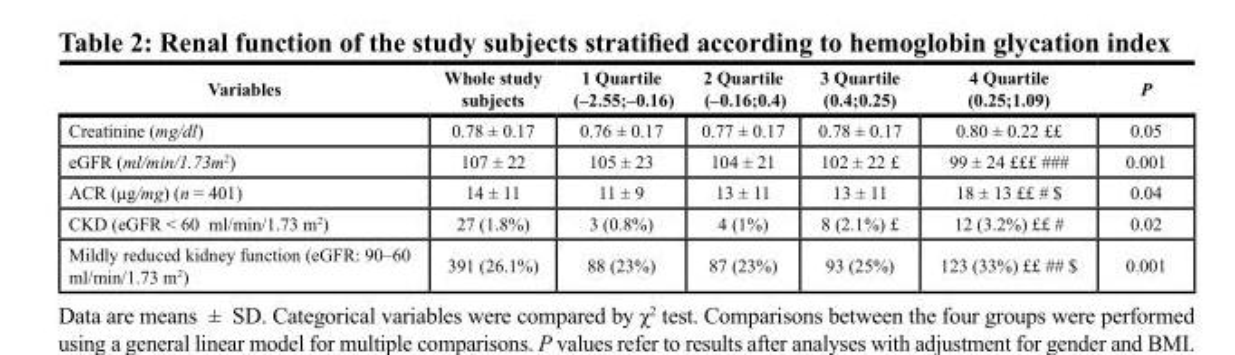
<table><thead><tr><td>Variables</td><td>Whole study subjects</td><td>1 Quartile (–2.55;–0.16)</td><td>2 Quartile (–0.16;0.4)</td><td>3 Quartile (0.4;0.25)</td><td>4 Quartile (0.25;1.09)</td><td>P</td></tr></thead><tbody><tr><td>Creatinine (mg/dl)</td><td>0.78 ± 0.17</td><td>0.76 ± 0.17</td><td>0.77 ± 0.17</td><td>0.78 ± 0.17</td><td>0.80 ± 0.22 ££</td><td>0.05</td></tr><tr><td>eGFR (ml/min/1.73m<sup>2</sup>)</td><td>107 ± 22</td><td>105 ± 23</td><td>104 ± 21</td><td>102 ± 22 £</td><td>99 ± 24 £££ ###</td><td>0.001</td></tr><tr><td>ACR (μg/mg) (n = 401)</td><td>14 ± 11</td><td>11 ± 9</td><td>13 ± 11</td><td>13 ± 11</td><td>18 ± 13 ££ # $</td><td>0.04</td></tr><tr><td>CKD (eGFR ˂ 60 ml/min/1.73 m2)</td><td>27 (1.8%)</td><td>3 (0.8%)</td><td>4 (1%)</td><td>8 (2.1%) £</td><td>12 (3.2%) ££ #</td><td>0.02</td></tr><tr><td>Mildly reduced kidney function (eGFR: 90–60 ml/min/1.73 m<sup>2</sup>)</td><td>391 (26.1%)</td><td>88 (23%)</td><td>87 (23%)</td><td>93 (25%)</td><td>123 (33%) ££ ## $</td><td>0.001</td></tr></tbody></table>